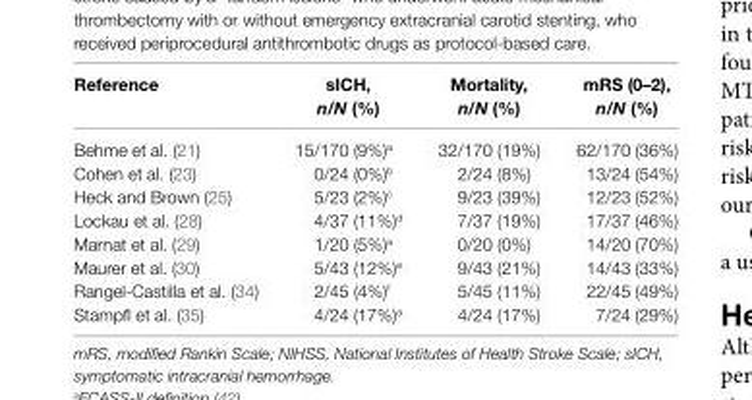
<table><thead><tr><td>Reference</td><td>sicH, n/N (%)</td><td>mortality, n/N (%)</td><td>mRS (0–2), n/N (%)</td></tr></thead><tbody><tr><td>Behme et al. (21)</td><td>15/170 (9%)<sup>a</sup></td><td>32/170 (19%)</td><td>62/170 (36%)</td></tr><tr><td>Cohen et al. (23)</td><td>0/24 (0%)<sup>b</sup></td><td>2/24 (8%)</td><td>13/24 (54%)</td></tr><tr><td>Heck and Brown (25)</td><td>5/23 (2%)<sup>c</sup></td><td>9/23 (39%)</td><td>12/23 (52%)</td></tr><tr><td>Lockau et al. (28)</td><td>4/37 (11%)<sup>d</sup></td><td>7/37 (19%)</td><td>17/37 (46%)</td></tr><tr><td>Marnat et al. (29)</td><td>1/20 (5%)<sup>a</sup></td><td>0/20 (0%)</td><td>14/20 (70%)</td></tr><tr><td>Maurer et al. (30)</td><td>5/43 (12%)<sup>e</sup></td><td>9/43 (21%)</td><td>14/43 (33%)</td></tr><tr><td>Rangel-Castilla et al. (34)</td><td>2/45 (4%)<sup>f</sup></td><td>5/45 (11%)</td><td>22/45 (49%)</td></tr><tr><td>Stampfl et al. (35)</td><td>4/24 (17%)<sup>a</sup></td><td>4/24 (17%)</td><td>7/24 (29%)</td></tr></tbody></table>